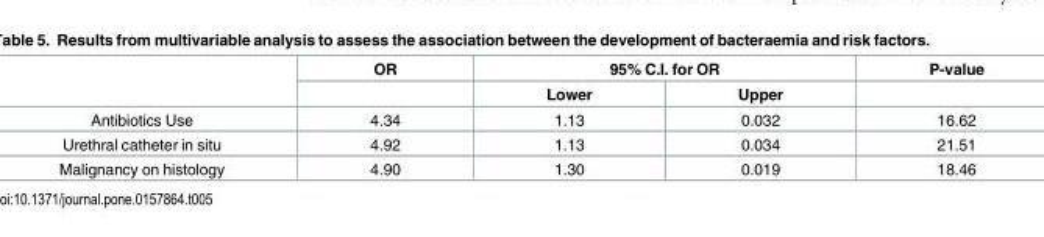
<table><thead><tr><td rowspan="2"></td><td rowspan="2">OR</td><td colspan="2">95% C.I. for OR</td><td rowspan="2">P-value</td></tr><tr><td>Lower</td><td>Upper</td></tr></thead><tbody><tr><td>Antibiotics Use</td><td>4.34</td><td>1.13</td><td>0.032</td><td>16.62</td></tr><tr><td>Urethral catheter in situ</td><td>4.92</td><td>1.13</td><td>0.034</td><td>21.51</td></tr><tr><td>Malignancy on histology</td><td>4.90</td><td>1.30</td><td>0.019</td><td>18.46</td></tr></tbody></table>